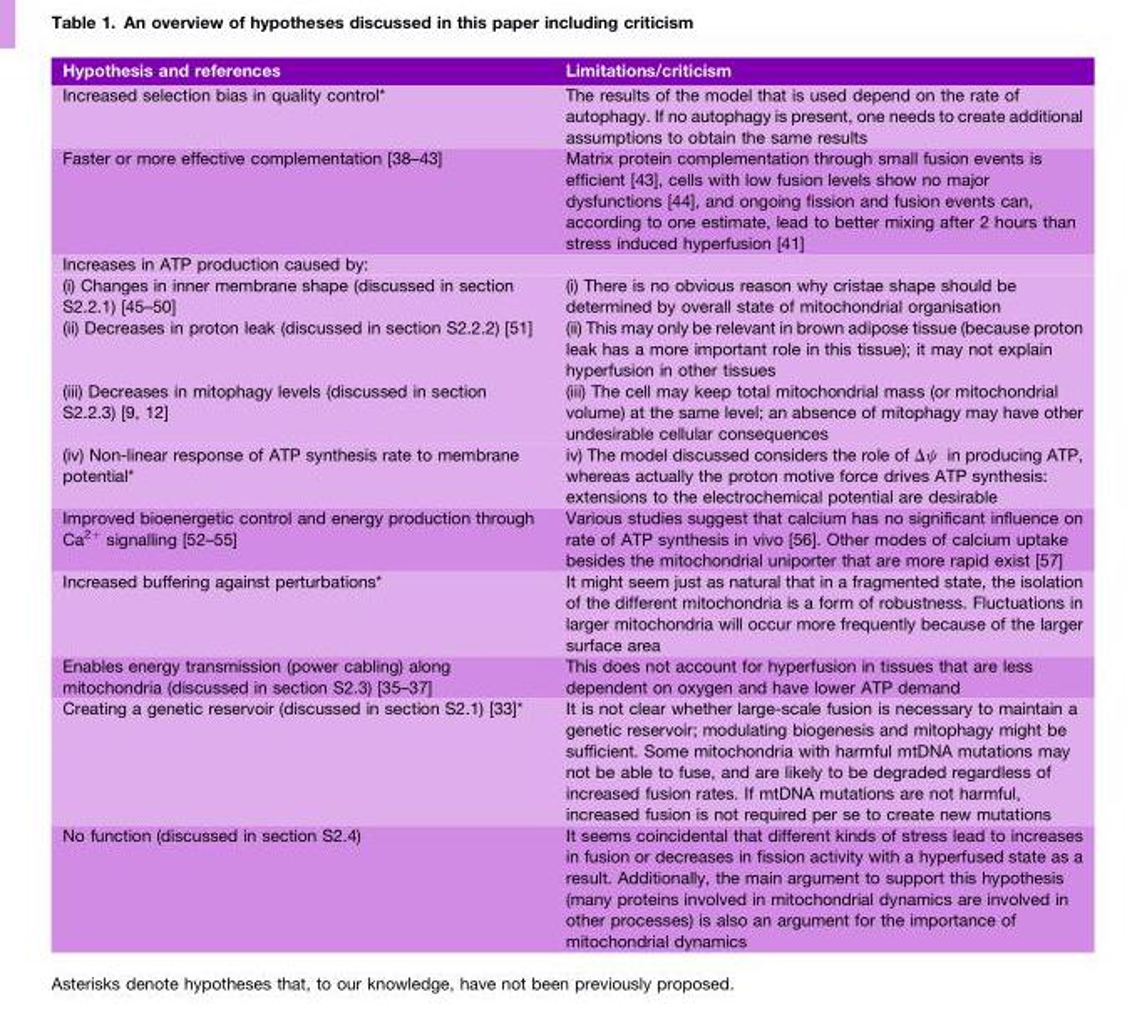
<table><thead><tr><td>Hypothesis and references</td><td>Limitations/criticism</td></tr></thead><tbody><tr><td>Increased selection bias in quality control*</td><td>The results of the model that is used depend on the rate of autophagy. If no autophagy is present, one needs to create additional assumptions to obtain the same results</td></tr><tr><td>Faster or more effective complementation [38–43]</td><td>Matrix protein complementation through small fusion events is efficient [43], cells with low fusion levels show no major dysfunctions [44], and ongoing fission and fusion events can, according to one estimate, lead to better mixing after 2 hours than stress induced hyperfusion [41]</td></tr><tr><td colspan="2">Increases in ATP production caused by:</td></tr><tr><td>(i) Changes in inner membrane shape (discussed in section S2.2.1) [45–50]</td><td>(i) There is no obvious reason why cristae shape should be determined by overall state of mitochondrial organisation</td></tr><tr><td>(ii) Decreases in proton leak (discussed in section S2.2.2) [51]</td><td>(ii) This may only be relevant in brown adipose tissue (because proton leak has a more important role in this tissue); it may not explain hyperfusion in other tissues</td></tr><tr><td>(iii) Decreases in mitophagy levels (discussed in section S2.2.3) [9, 12]</td><td>(iii) The cell may keep total mitochondrial mass (or mitochondrial volume) at the same level; an absence of mitophagy may have other undesirable cellular consequences</td></tr><tr><td>(iv) Non-linear response of ATP synthesis rate to membrane potential*</td><td>iv) The model discussed considers the role of Δψ in producing ATP, whereas actually the proton motive force drives ATP synthesis: extensions to the electrochemical potential are desirable</td></tr><tr><td>Improved bioenergetic control and energy production through Ca2þ signalling [52–55]</td><td>Various studies suggest that calcium has no significant influence on rate of ATP synthesis in vivo [56]. Other modes of calcium uptake besides the mitochondrial uniporter that are more rapid exist [57]</td></tr><tr><td>Increased buffering against perturbations*</td><td>It might seem just as natural that in a fragmented state, the isolation of the different mitochondria is a form of robustness. Fluctuations in larger mitochondria will occur more frequently because of the larger surface area</td></tr><tr><td>Enables energy transmission (power cabling) along mitochondria (discussed in section S2.3) [35–37]</td><td>This does not account for hyperfusion in tissues that are less dependent on oxygen and have lower ATP demand</td></tr><tr><td>Creating a genetic reservoir (discussed in section S2.1) [33]*</td><td>It is not clear whether large-scale fusion is necessary to maintain a genetic reservoir; modulating biogenesis and mitophagy might be sufficient. Some mitochondria with harmful mtDNA mutations may not be able to fuse, and are likely to be degraded regardless of increased fusion rates. If mtDNA mutations are not harmful, increased fusion is not required per se to create new mutations</td></tr><tr><td>No function (discussed in section S2.4)</td><td>It seems coincidental that different kinds of stress lead to increases in fusion or decreases in fission activity with a hyperfused state as a result. Additionally, the main argument to support this hypothesis (many proteins involved in mitochondrial dynamics are involved in other processes) is also an argument for the importance of mitochondrial dynamics</td></tr></tbody></table>